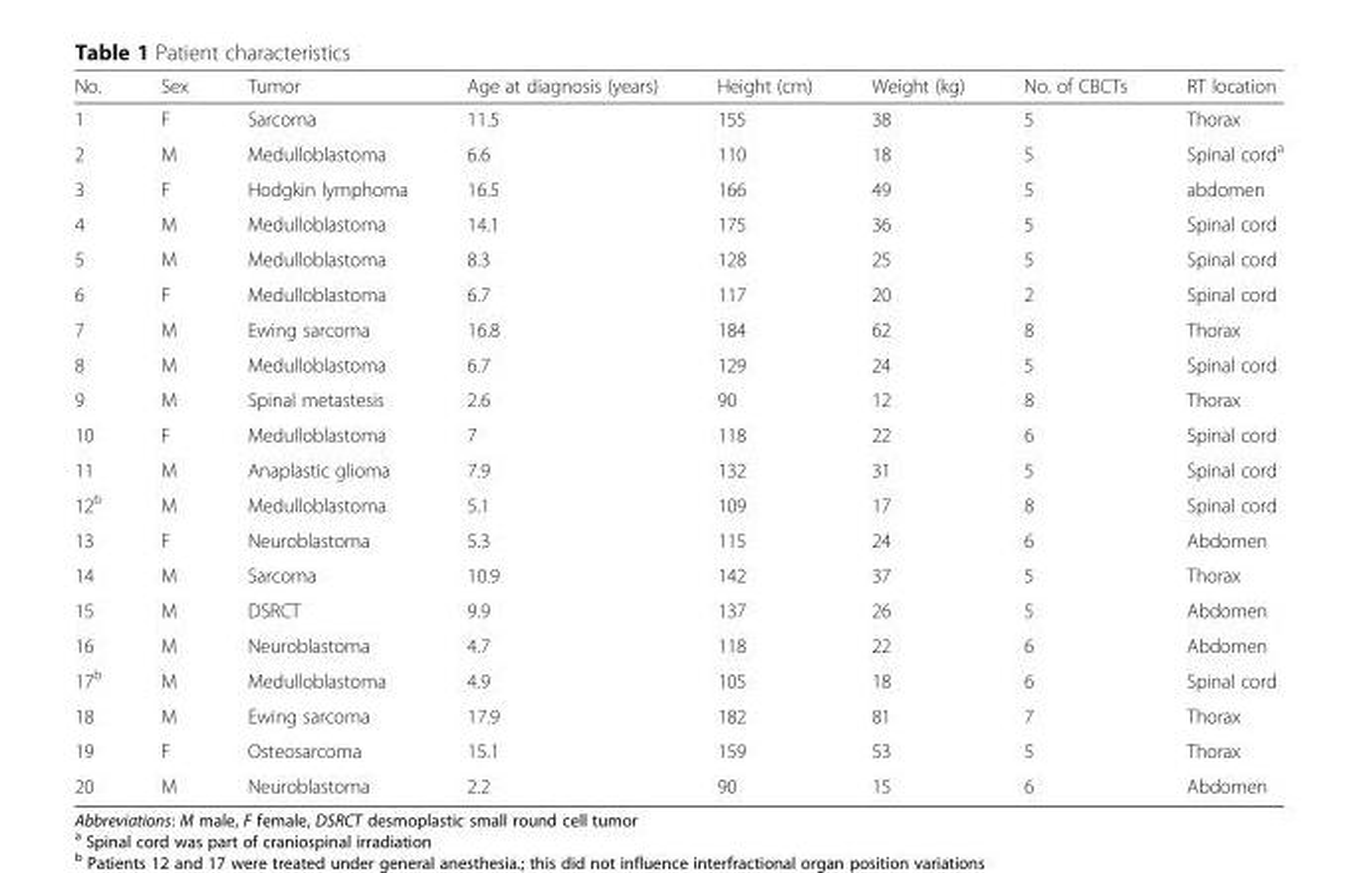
<table><thead><tr><td>No.</td><td>Sex</td><td>Tumor</td><td>Age at diagnosis (years)</td><td>Height (cm)</td><td>Weight (kg)</td><td>No. of CBCTs</td><td>RT location</td></tr></thead><tbody><tr><td>1</td><td>F</td><td>Sarcoma</td><td>11.5</td><td>155</td><td>38</td><td>5</td><td>Thorax</td></tr><tr><td>2</td><td>M</td><td>Medulloblastoma</td><td>6.6</td><td>110</td><td>18</td><td>5</td><td>Spinal cord<sup>a</sup></td></tr><tr><td>3</td><td>F</td><td>Hodgkin lymphoma</td><td>16.5</td><td>166</td><td>49</td><td>5</td><td>abdomen</td></tr><tr><td>4</td><td>M</td><td>Medulloblastoma</td><td>14.1</td><td>175</td><td>36</td><td>5</td><td>Spinal cord</td></tr><tr><td>5</td><td>M</td><td>Medulloblastoma</td><td>8.3</td><td>128</td><td>25</td><td>5</td><td>Spinal cord</td></tr><tr><td>6</td><td>F</td><td>Medulloblastoma</td><td>6.7</td><td>117</td><td>20</td><td>2</td><td>Spinal cord</td></tr><tr><td>7</td><td>M</td><td>Ewing sarcoma</td><td>16.8</td><td>184</td><td>62</td><td>8</td><td>Thorax</td></tr><tr><td>8</td><td>M</td><td>Medulloblastoma</td><td>6.7</td><td>129</td><td>24</td><td>5</td><td>Spinal cord</td></tr><tr><td>9</td><td>M</td><td>Spinal metastesis</td><td>2.6</td><td>90</td><td>12</td><td>8</td><td>Thorax</td></tr><tr><td>10</td><td>F</td><td>Medulloblastoma</td><td>7</td><td>118</td><td>22</td><td>6</td><td>Spinal cord</td></tr><tr><td>11</td><td>M</td><td>Anaplastic glioma</td><td>7.9</td><td>132</td><td>31</td><td>5</td><td>Spinal cord</td></tr><tr><td>12<sup>b</sup></td><td>M</td><td>Medulloblastoma</td><td>5.1</td><td>109</td><td>17</td><td>8</td><td>Spinal cord</td></tr><tr><td>13</td><td>F</td><td>Neuroblastoma</td><td>5.3</td><td>115</td><td>24</td><td>6</td><td>Abdomen</td></tr><tr><td>14</td><td>M</td><td>Sarcoma</td><td>10.9</td><td>142</td><td>37</td><td>5</td><td>Thorax</td></tr><tr><td>15</td><td>M</td><td>DSRCT</td><td>9.9</td><td>137</td><td>26</td><td>5</td><td>Abdomen</td></tr><tr><td>16</td><td>M</td><td>Neuroblastoma</td><td>4.7</td><td>118</td><td>22</td><td>6</td><td>Abdomen</td></tr><tr><td>17<sup>b</sup></td><td>M</td><td>Medulloblastoma</td><td>4.9</td><td>105</td><td>18</td><td>6</td><td>Spinal cord</td></tr><tr><td>18</td><td>M</td><td>Ewing sarcoma</td><td>17.9</td><td>182</td><td>81</td><td>7</td><td>Thorax</td></tr><tr><td>19</td><td>F</td><td>Osteosarcoma</td><td>15.1</td><td>159</td><td>53</td><td>5</td><td>Thorax</td></tr><tr><td>20</td><td>M</td><td>Neuroblastoma</td><td>2.2</td><td>90</td><td>15</td><td>6</td><td>Abdomen</td></tr></tbody></table>